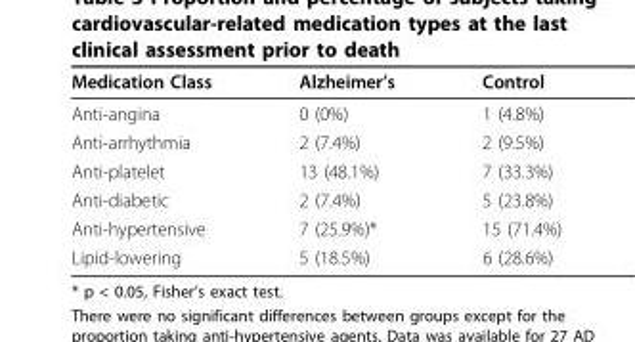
<table><thead><tr><td>Medication Class</td><td>Alzheimer’s</td><td>Control</td></tr></thead><tbody><tr><td>Anti-angina</td><td>0 (0%)</td><td>1 (4.8%)</td></tr><tr><td>Anti-arrhythmia</td><td>2 (7.4%)</td><td>2 (9.5%)</td></tr><tr><td>Anti-platelet</td><td>13 (48.1%)</td><td>7 (33.3%)</td></tr><tr><td>Anti-diabetic</td><td>2 (7.4%)</td><td>5 (23.8%)</td></tr><tr><td>Anti-hypertensive</td><td>7 (25.9%)*</td><td>15 (71.4%)</td></tr><tr><td>Lipid-lowering</td><td>5 (18.5%)</td><td>6 (28.6%)</td></tr></tbody></table>